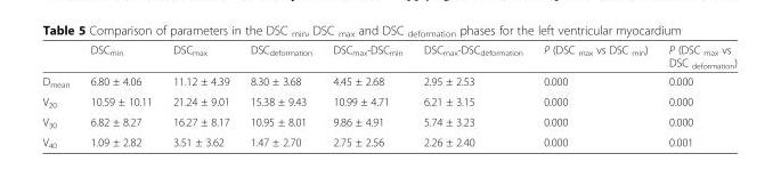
<table><thead><tr><td></td><td>DSC<sub>min</sub></td><td>DSC<sub>max</sub></td><td>DSC<sub>deformation</sub></td><td>DSC<sub>max</sub>-DSC<sub>min</sub></td><td>DSC<sub>max</sub>-DSC<sub>deformation</sub></td><td>P (DSC <sub>max</sub> vs DSC <sub>min</sub>)</td><td>P (DSC <sub>max</sub> vs DSC <sub>deformation</sub>)</td></tr></thead><tbody><tr><td>D<sub>mean</sub></td><td>6.80 ± 4.06</td><td>11.12 ± 4.39</td><td>8.30 ± 3.68</td><td>4.45 ± 2.68</td><td>2.95 ± 2.53</td><td>0.000</td><td>0.000</td></tr><tr><td>V<sub>20</sub></td><td>10.59 ± 10.11</td><td>21.24 ± 9.01</td><td>15.38 ± 9.43</td><td>10.99 ± 4.71</td><td>6.21 ± 3.15</td><td>0.000</td><td>0.000</td></tr><tr><td>V<sub>30</sub></td><td>6.82 ± 8.27</td><td>16.27 ± 8.17</td><td>10.95 ± 8.01</td><td>9.86 ± 4.91</td><td>5.74 ± 3.23</td><td>0.000</td><td>0.000</td></tr><tr><td>V<sub>40</sub></td><td>1.09 ± 2.82</td><td>3.51 ± 3.62</td><td>1.47 ± 2.70</td><td>2.75 ± 2.56</td><td>2.26 ± 2.40</td><td>0.000</td><td>0.001</td></tr></tbody></table>